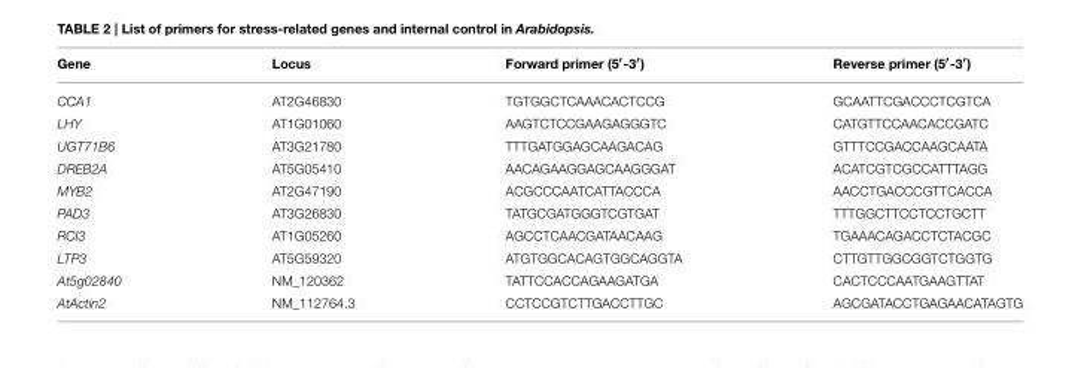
<table><thead><tr><td>Gene</td><td>Locus</td><td>Forward primer (5′-3′)</td><td>Reverse primer (5′-3′)</td></tr></thead><tbody><tr><td>CCA1</td><td>AT2G46830</td><td>TGTGGCTCAAACACTCCG</td><td>GCAATTCGACCCTCGTCA</td></tr><tr><td>LHY</td><td>AT1G01060</td><td>AAGTCTCCGAAGAGGGTC</td><td>CATGTTCCAACACCGATC</td></tr><tr><td>UGT71B6</td><td>AT3G21780</td><td>TTTGATGGAGCAAGACAG</td><td>GTTTCCGACCAAGCAATA</td></tr><tr><td>DREB2A</td><td>AT5G05410</td><td>AACAGAAGGAGCAAGGGAT</td><td>ACATCGTCGCCATTTAGG</td></tr><tr><td>MYB2</td><td>AT2G47190</td><td>ACGCCCAATCATTACCCA</td><td>AACCTGACCCGTTCACCA</td></tr><tr><td>PAD3</td><td>AT3G26830</td><td>TATGCGATGGGTCGTGAT</td><td>TTTGGCTTCCTCCTGCTT</td></tr><tr><td>RCI3</td><td>AT1G05260</td><td>AGCCTCAACGATAACAAG</td><td>TGAAACAGACCTCTACGC</td></tr><tr><td>LTP3</td><td>AT5G59320</td><td>ATGTGGCACAGTGGCAGGTA</td><td>CTTGTTGGCGGTCTGGTG</td></tr><tr><td>At5g02840</td><td>NM_120362</td><td>TATTCCACCAGAAGATGA</td><td>CACTCCCAATGAAGTTAT</td></tr><tr><td>AtActin2</td><td>NM_112764.3</td><td>CCTCCGTCTTGACCTTGC</td><td>AGCGATACCTGAGAACATAGTG</td></tr></tbody></table>